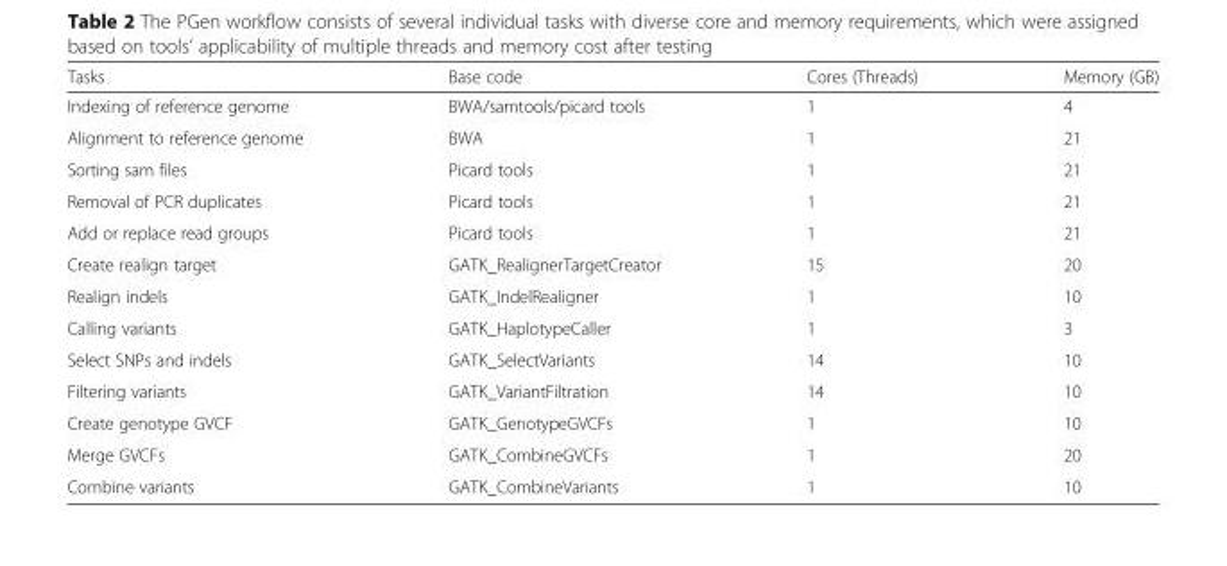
<table><thead><tr><td>Tasks</td><td>Base code</td><td>Cores (Threads)</td><td>Memory (GB)</td></tr></thead><tbody><tr><td>Indexing of reference genome</td><td>BWA/samtools/picard tools</td><td>1</td><td>4</td></tr><tr><td>Alignment to reference genome</td><td>BWA</td><td>1</td><td>21</td></tr><tr><td>Sorting sam files</td><td>Picard tools</td><td>1</td><td>21</td></tr><tr><td>Removal of PCR duplicates</td><td>Picard tools</td><td>1</td><td>21</td></tr><tr><td>Add or replace read groups</td><td>Picard tools</td><td>1</td><td>21</td></tr><tr><td>Create realign target</td><td>GATK_RealignerTargetCreator</td><td>15</td><td>20</td></tr><tr><td>Realign indels</td><td>GATK_IndelRealigner</td><td>1</td><td>10</td></tr><tr><td>Calling variants</td><td>GATK_HaplotypeCaller</td><td>1</td><td>3</td></tr><tr><td>Select SNPs and indels</td><td>GATK_SelectVariants</td><td>14</td><td>10</td></tr><tr><td>Filtering variants</td><td>GATK_VariantFiltration</td><td>14</td><td>10</td></tr><tr><td>Create genotype GVCF</td><td>GATK_GenotypeGVCFs</td><td>1</td><td>10</td></tr><tr><td>Merge GVCFs</td><td>GATK_CombineGVCFs</td><td>1</td><td>20</td></tr><tr><td>Combine variants</td><td>GATK_CombineVariants</td><td>1</td><td>10</td></tr></tbody></table>